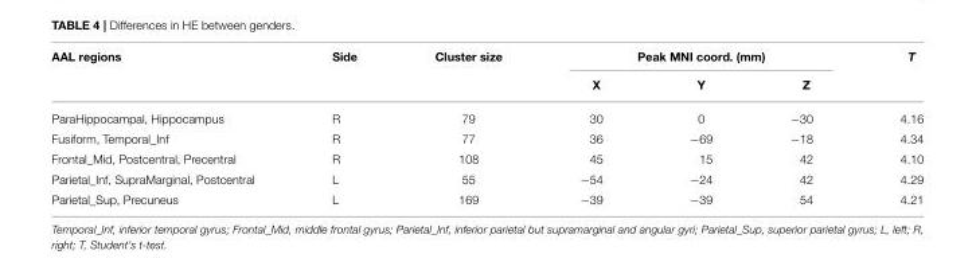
<table><thead><tr><td rowspan="2">AAL regions</td><td rowspan="2">Side</td><td rowspan="2">Cluster size</td><td colspan="3">Peak MNI coord. (mm)</td><td rowspan="2">T</td></tr><tr><td>X</td><td>Y</td><td>Z</td></tr></thead><tbody><tr><td>ParaHippocampal, Hippocampus</td><td>R</td><td>79</td><td>30</td><td>0</td><td>−30</td><td>4.16</td></tr><tr><td>Fusiform, Temporal_Inf</td><td>R</td><td>77</td><td>36</td><td>−69</td><td>−18</td><td>4.34</td></tr><tr><td>Frontal_Mid, Postcentral, Precentral</td><td>R</td><td>108</td><td>45</td><td>15</td><td>42</td><td>4.10</td></tr><tr><td>Parietal_Inf, SupraMarginal, Postcentral</td><td>L</td><td>55</td><td>−54</td><td>−24</td><td>42</td><td>4.29</td></tr><tr><td>Parietal_Sup, Precuneus</td><td>L</td><td>169</td><td>−39</td><td>−39</td><td>54</td><td>4.21</td></tr></tbody></table>